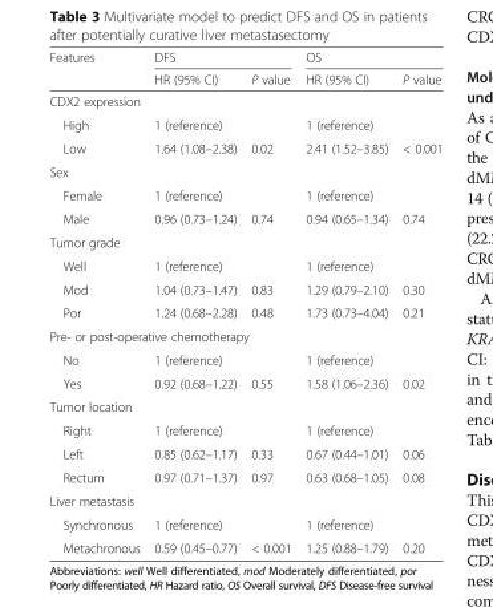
<table><thead><tr><td rowspan="2">Features</td><td colspan="2">DFS</td><td colspan="2">OS</td></tr><tr><td>HR (95% CI)</td><td>P value</td><td>HR (95% CI)</td><td>P value</td></tr></thead><tbody><tr><td colspan="5">CDX2 expression</td></tr><tr><td>High</td><td>1 (reference)</td><td></td><td>1 (reference)</td><td></td></tr><tr><td>Low</td><td>1.64 (1.08–2.38)</td><td>0.02</td><td>2.41 (1.52–3.85)</td><td>&lt; 0.001</td></tr><tr><td colspan="5">Sex</td></tr><tr><td>Female</td><td>1 (reference)</td><td></td><td>1 (reference)</td><td></td></tr><tr><td>Male</td><td>0.96 (0.73–1.24)</td><td>0.74</td><td>0.94 (0.65–1.34)</td><td>0.74</td></tr><tr><td colspan="5">Tumor grade</td></tr><tr><td>Well</td><td>1 (reference)</td><td></td><td>1 (reference)</td><td></td></tr><tr><td>Mod</td><td>1.04 (0.73–1.47)</td><td>0.83</td><td>1.29 (0.79–2.10)</td><td>0.30</td></tr><tr><td>Por</td><td>1.24 (0.68–2.28)</td><td>0.48</td><td>1.73 (0.73–4.04)</td><td>0.21</td></tr><tr><td colspan="5">Pre- or post-operative chemotherapy</td></tr><tr><td>No</td><td>1 (reference)</td><td></td><td>1 (reference)</td><td></td></tr><tr><td>Yes</td><td>0.92 (0.68–1.22)</td><td>0.55</td><td>1.58 (1.06–2.36)</td><td>0.02</td></tr><tr><td colspan="5">Tumor location</td></tr><tr><td>Right</td><td>1 (reference)</td><td></td><td>1 (reference)</td><td></td></tr><tr><td>Left</td><td>0.85 (0.62–1.17)</td><td>0.33</td><td>0.67 (0.44–1.01)</td><td>0.06</td></tr><tr><td>Rectum</td><td>0.97 (0.71–1.37)</td><td>0.97</td><td>0.63 (0.68–1.05)</td><td>0.08</td></tr><tr><td colspan="5">Liver metastasis</td></tr><tr><td>Synchronous</td><td>1 (reference)</td><td></td><td>1 (reference)</td><td></td></tr><tr><td>Metachronous</td><td>0.59 (0.45–0.77)</td><td>&lt; 0.001</td><td>1.25 (0.88–1.79)</td><td>0.20</td></tr></tbody></table>